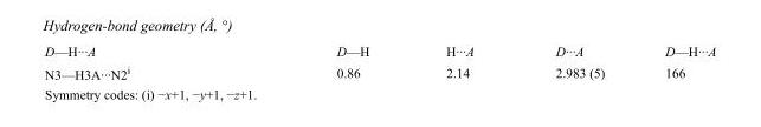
<table><tbody><tr><td>D—H···A</td><td>D—H</td><td>H···A</td><td>D···A</td><td>D—H···A</td></tr><tr><td>N3—H3A···N2<sup>i</sup></td><td>0.86</td><td>2.14</td><td>2.983 (5)</td><td>166</td></tr></tbody></table>